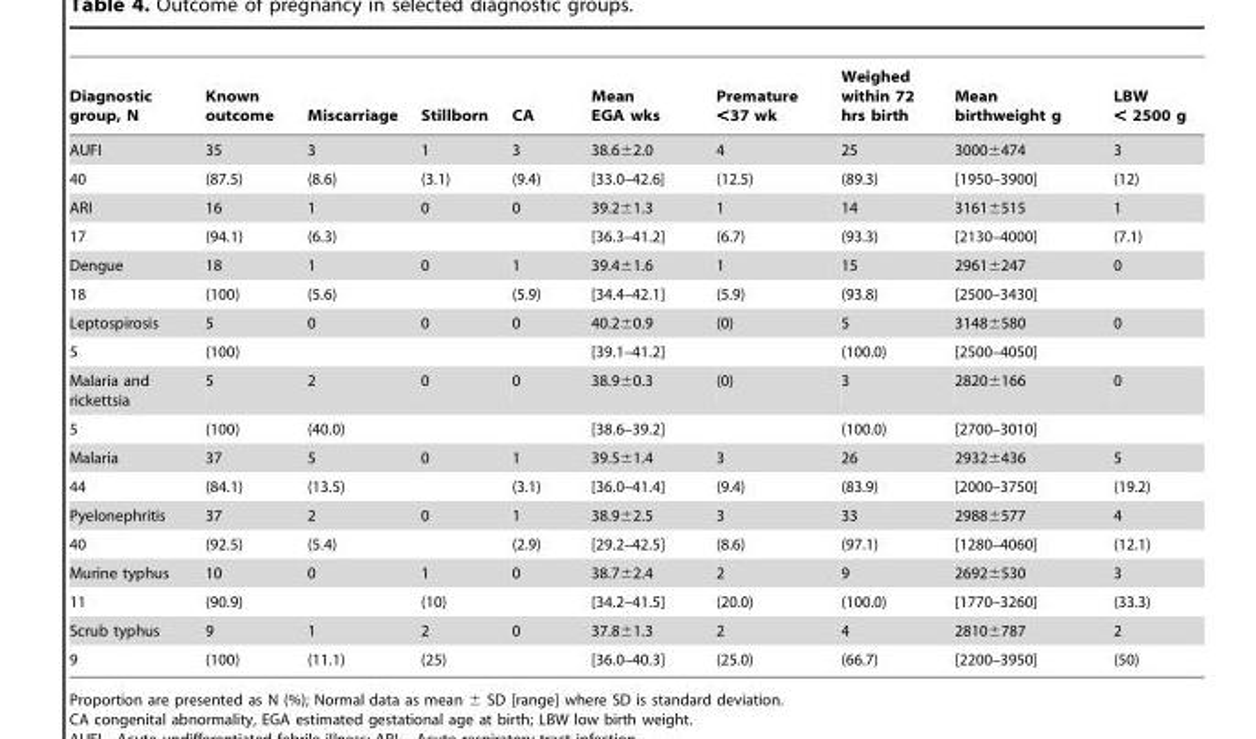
<table><thead><tr><td>Diagnostic group, N</td><td>Known outcome</td><td>Miscarriage</td><td>Stillborn</td><td>CA</td><td>Mean EGA wks</td><td>Premature &lt;37 wk</td><td>Weighed within 72 hrs birth</td><td>Mean birthweight g</td><td>LBW &lt; 2500 g</td></tr></thead><tbody><tr><td>AUFI</td><td>35</td><td>3</td><td>1</td><td>3</td><td>38.6±2.0</td><td>4</td><td>25</td><td>3000±474</td><td>3</td></tr><tr><td>40</td><td>(87.5)</td><td>(8.6)</td><td>(3.1)</td><td>(9.4)</td><td>[33.0–42.6]</td><td>(12.5)</td><td>(89.3)</td><td>[1950–3900]</td><td>(12)</td></tr><tr><td>ARI</td><td>16</td><td>1</td><td>0</td><td>0</td><td>39.2±1.3</td><td>1</td><td>14</td><td>3161±515</td><td>1</td></tr><tr><td>17</td><td>(94.1)</td><td>(6.3)</td><td></td><td></td><td>[36.3–41.2]</td><td>(6.7)</td><td>(93.3)</td><td>[2130–4000]</td><td>(7.1)</td></tr><tr><td>Dengue</td><td>18</td><td>1</td><td>0</td><td>1</td><td>39.4±1.6</td><td>1</td><td>15</td><td>2961±247</td><td>0</td></tr><tr><td>18</td><td>(100)</td><td>(5.6)</td><td></td><td>(5.9)</td><td>[34.4–42.1]</td><td>(5.9)</td><td>(93.8)</td><td>[2500–3430]</td><td></td></tr><tr><td>Leptospirosis</td><td>5</td><td>0</td><td>0</td><td>0</td><td>40.2±0.9</td><td>(0)</td><td>5</td><td>3148±580</td><td>0</td></tr><tr><td>5</td><td>(100)</td><td></td><td></td><td></td><td>[39.1–41.2]</td><td></td><td>(100.0)</td><td>[2500–4050]</td><td></td></tr><tr><td>Malaria and rickettsia</td><td>5</td><td>2</td><td>0</td><td>0</td><td>38.9±0.3</td><td>(0)</td><td>3</td><td>2820±166</td><td>0</td></tr><tr><td>5</td><td>(100)</td><td>(40.0)</td><td></td><td></td><td>[38.6–39.2]</td><td></td><td>(100.0)</td><td>[2700–3010]</td><td></td></tr><tr><td>Malaria</td><td>37</td><td>5</td><td>0</td><td>1</td><td>39.5±1.4</td><td>3</td><td>26</td><td>2932±436</td><td>5</td></tr><tr><td>44</td><td>(84.1)</td><td>(13.5)</td><td></td><td>(3.1)</td><td>[36.0–41.4]</td><td>(9.4)</td><td>(83.9)</td><td>[2000–3750]</td><td>(19.2)</td></tr><tr><td>Pyelonephritis</td><td>37</td><td>2</td><td>0</td><td>1</td><td>38.9±2.5</td><td>3</td><td>33</td><td>2988±577</td><td>4</td></tr><tr><td>40</td><td>(92.5)</td><td>(5.4)</td><td></td><td>(2.9)</td><td>[29.2–42.5]</td><td>(8.6)</td><td>(97.1)</td><td>[1280–4060]</td><td>(12.1)</td></tr><tr><td>Murine typhus</td><td>10</td><td>0</td><td>1</td><td>0</td><td>38.7±2.4</td><td>2</td><td>9</td><td>2692±530</td><td>3</td></tr><tr><td>11</td><td>(90.9)</td><td></td><td>(10)</td><td></td><td>[34.2–41.5]</td><td>(20.0)</td><td>(100.0)</td><td>[1770–3260]</td><td>(33.3)</td></tr><tr><td>Scrub typhus</td><td>9</td><td>1</td><td>2</td><td>0</td><td>37.8±1.3</td><td>2</td><td>4</td><td>2810±787</td><td>2</td></tr><tr><td>9</td><td>(100)</td><td>(11.1)</td><td>(25)</td><td></td><td>[36.0–40.3]</td><td>(25.0)</td><td>(66.7)</td><td>[2200–3950]</td><td>(50)</td></tr></tbody></table>